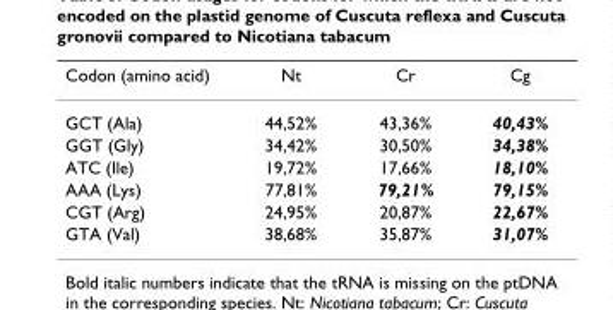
<table><thead><tr><td>Codon (amino acid)</td><td>Nt</td><td>Cr</td><td>Cg</td></tr></thead><tbody><tr><td>GCT (Ala)</td><td>44,52%</td><td>43,36%</td><td>40,43%</td></tr><tr><td>GGT (Gly)</td><td>34,42%</td><td>30,50%</td><td>34,38%</td></tr><tr><td>ATC (Ile)</td><td>19,72%</td><td>17,66%</td><td>18,10%</td></tr><tr><td>AAA (Lys)</td><td>77,81%</td><td>79,21%</td><td>79,15%</td></tr><tr><td>CGT (Arg)</td><td>24,95%</td><td>20,87%</td><td>22,67%</td></tr><tr><td>GTA (Val)</td><td>38,68%</td><td>35,87%</td><td>31,07%</td></tr></tbody></table>